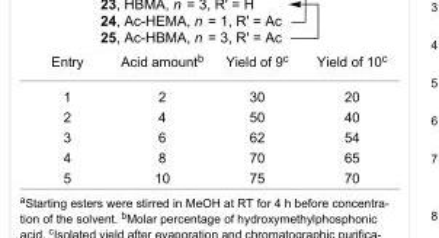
<table><tbody><tr><td>Entry</td><td>Acid amount<sup>b</sup></td><td>Yield of 9<sup>c</sup></td><td>Yield of 10<sup>c</sup></td></tr><tr><td>1</td><td>2</td><td>30</td><td>20</td></tr><tr><td>2</td><td>4</td><td>50</td><td>40</td></tr><tr><td>3</td><td>6</td><td>62</td><td>54</td></tr><tr><td>4</td><td>8</td><td>70</td><td>65</td></tr><tr><td>5</td><td>10</td><td>75</td><td>70</td></tr></tbody></table>